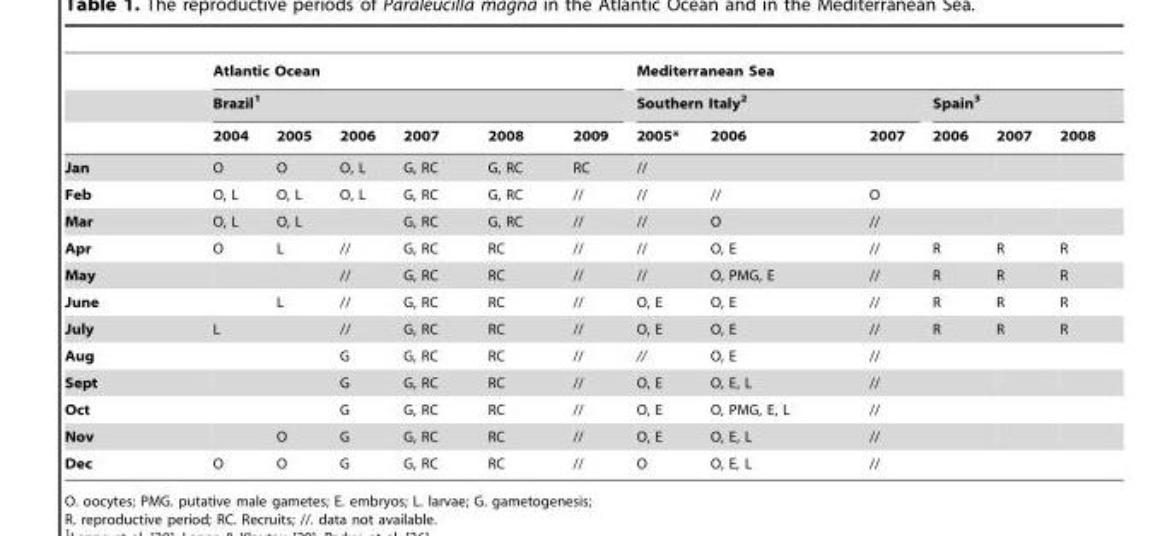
<table><thead><tr><td rowspan="3"></td><td rowspan="2" colspan="6">Atlantic Ocean Brazil<sup>1</sup></td><td colspan="6">Mediterranean Sea</td></tr><tr><td colspan="3">Southern Italy<sup>2</sup></td><td colspan="3">Spain<sup>3</sup></td></tr><tr><td>2004</td><td>2005</td><td>2006</td><td>2007</td><td>2008</td><td>2009</td><td>2005*</td><td>2006</td><td>2007</td><td>2006</td><td>2007</td><td>2008</td></tr></thead><tbody><tr><td>Jan</td><td>O</td><td>O</td><td>O, L</td><td>G, RC</td><td>G, RC</td><td>RC</td><td>//</td><td></td><td></td><td></td><td></td><td></td></tr><tr><td>Feb</td><td>O, L</td><td>O, L</td><td>O, L</td><td>G, RC</td><td>G, RC</td><td>//</td><td>//</td><td>//</td><td>O</td><td></td><td></td><td></td></tr><tr><td>Mar</td><td>O, L</td><td>O, L</td><td></td><td>G, RC</td><td>G, RC</td><td>//</td><td>//</td><td>O</td><td>//</td><td></td><td></td><td></td></tr><tr><td>Apr</td><td>O</td><td>L</td><td>//</td><td>G, RC</td><td>RC</td><td>//</td><td>//</td><td>O, E</td><td>//</td><td>R</td><td>R</td><td>R</td></tr><tr><td>May</td><td></td><td></td><td>//</td><td>G, RC</td><td>RC</td><td>//</td><td>//</td><td>O, PMG, E</td><td>//</td><td>R</td><td>R</td><td>R</td></tr><tr><td>June</td><td></td><td>L</td><td>//</td><td>G, RC</td><td>RC</td><td>//</td><td>O, E</td><td>O, E</td><td>//</td><td>R</td><td>R</td><td>R</td></tr><tr><td>July</td><td>L</td><td></td><td>//</td><td>G, RC</td><td>RC</td><td>//</td><td>O, E</td><td>O, E</td><td>//</td><td>R</td><td>R</td><td>R</td></tr><tr><td>Aug</td><td></td><td></td><td>G</td><td>G, RC</td><td>RC</td><td>//</td><td>//</td><td>O, E</td><td>//</td><td></td><td></td><td></td></tr><tr><td>Sept</td><td></td><td></td><td>G</td><td>G, RC</td><td>RC</td><td>//</td><td>O, E</td><td>O, E, L</td><td>//</td><td></td><td></td><td></td></tr><tr><td>Oct</td><td></td><td></td><td>G</td><td>G, RC</td><td>RC</td><td>//</td><td>O, E</td><td>O, PMG, E, L</td><td>//</td><td></td><td></td><td></td></tr><tr><td>Nov</td><td></td><td>O</td><td>G</td><td>G, RC</td><td>RC</td><td>//</td><td>O, E</td><td>O, E, L</td><td>//</td><td></td><td></td><td></td></tr><tr><td>Dec</td><td>O</td><td>O</td><td>G</td><td>G, RC</td><td>RC</td><td>//</td><td>O</td><td>O, E, L</td><td>//</td><td></td><td></td><td></td></tr></tbody></table>